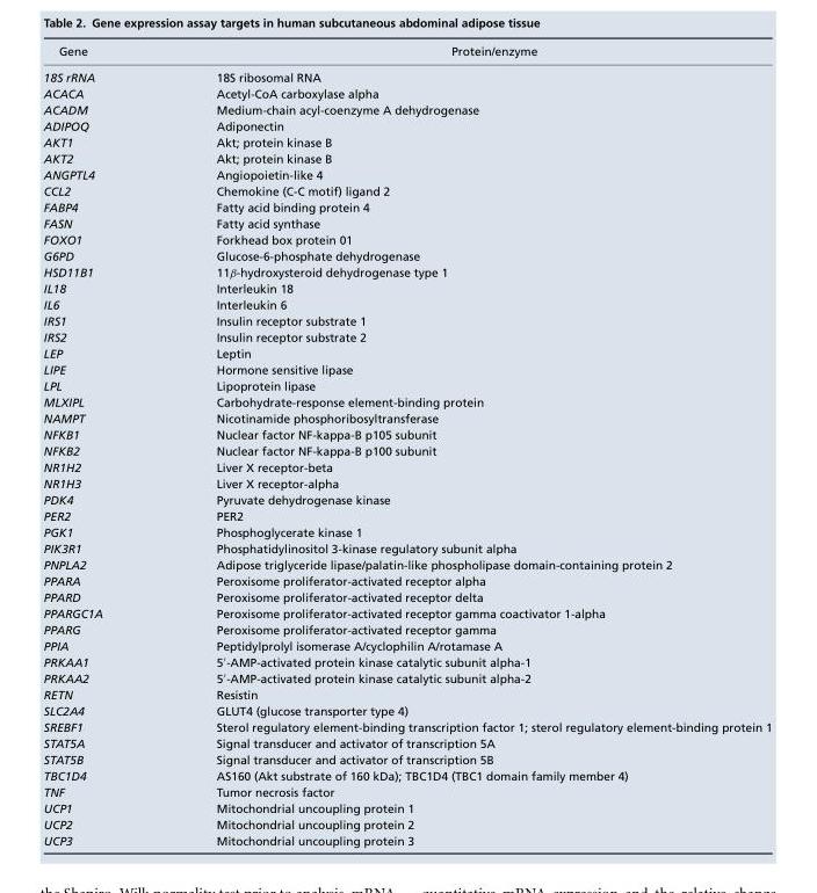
<table><thead><tr><td>Gene</td><td>Protein/enzyme</td></tr></thead><tbody><tr><td>18S rRNA</td><td>18S ribosomal RNA</td></tr><tr><td>ACACA</td><td>Acetyl-CoA carboxylase alpha</td></tr><tr><td>ACADM</td><td>Medium-chain acyl-coenzyme A dehydrogenase</td></tr><tr><td>ADIPOQ</td><td>Adiponectin</td></tr><tr><td>AKT1</td><td>Akt; protein kinase B</td></tr><tr><td>AKT2</td><td>Akt; protein kinase B</td></tr><tr><td>ANGPTL4</td><td>Angiopoietin-like 4</td></tr><tr><td>CCL2</td><td>Chemokine (C-C motif) ligand 2</td></tr><tr><td>FABP4</td><td>Fatty acid binding protein 4</td></tr><tr><td>FASN</td><td>Fatty acid synthase</td></tr><tr><td>FOXO1</td><td>Forkhead box protein 01</td></tr><tr><td>G6PD</td><td>Glucose-6-phosphate dehydrogenase</td></tr><tr><td>HSD11B1</td><td>11β-hydroxysteroid dehydrogenase type 1</td></tr><tr><td>IL18</td><td>Interleukin 18</td></tr><tr><td>IL6</td><td>Interleukin 6</td></tr><tr><td>IRS1</td><td>Insulin receptor substrate 1</td></tr><tr><td>IRS2</td><td>Insulin receptor substrate 2</td></tr><tr><td>LEP</td><td>Leptin</td></tr><tr><td>LIPE</td><td>Hormone sensitive lipase</td></tr><tr><td>LPL</td><td>Lipoprotein lipase</td></tr><tr><td>MLXIPL</td><td>Carbohydrate-response element-binding protein</td></tr><tr><td>NAMPT</td><td>Nicotinamide phosphoribosyltransferase</td></tr><tr><td>NFKB1</td><td>Nuclear factor NF-kappa-B p105 subunit</td></tr><tr><td>NFKB2</td><td>Nuclear factor NF-kappa-B p100 subunit</td></tr><tr><td>NR1H2</td><td>Liver X receptor-beta</td></tr><tr><td>NR1H3</td><td>Liver X receptor-alpha</td></tr><tr><td>PDK4</td><td>Pyruvate dehydrogenase kinase</td></tr><tr><td>PER2</td><td>PER2</td></tr><tr><td>PGK1</td><td>Phosphoglycerate kinase 1</td></tr><tr><td>PIK3R1</td><td>Phosphatidylinositol 3-kinase regulatory subunit alpha</td></tr><tr><td>PNPLA2</td><td>Adipose triglyceride lipase/palatin-like phospholipase domain-containing protein 2</td></tr><tr><td>PPARA</td><td>Peroxisome proliferator-activated receptor alpha</td></tr><tr><td>PPARD</td><td>Peroxisome proliferator-activated receptor delta</td></tr><tr><td>PPARGC1A</td><td>Peroxisome proliferator-activated receptor gamma coactivator 1-alpha</td></tr><tr><td>PPARG</td><td>Peroxisome proliferator-activated receptor gamma</td></tr><tr><td>PPIA</td><td>Peptidylprolyl isomerase A/cyclophilin A/rotamase A</td></tr><tr><td>PRKAA1</td><td>5′-AMP-activated protein kinase catalytic subunit alpha-1</td></tr><tr><td>PRKAA2</td><td>5′-AMP-activated protein kinase catalytic subunit alpha-2</td></tr><tr><td>RETN</td><td>Resistin</td></tr><tr><td>SLC2A4</td><td>GLUT4 (glucose transporter type 4)</td></tr><tr><td>SREBF1</td><td>Sterol regulatory element-binding transcription factor 1; sterol regulatory element-binding protein 1</td></tr><tr><td>STAT5A</td><td>Signal transducer and activator of transcription 5A</td></tr><tr><td>STAT5B</td><td>Signal transducer and activator of transcription 5B</td></tr><tr><td>TBC1D4</td><td>AS160 (Akt substrate of 160 kDa); TBC1D4 (TBC1 domain family member 4)</td></tr><tr><td>TNF</td><td>Tumor necrosis factor</td></tr><tr><td>UCP1</td><td>Mitochondrial uncoupling protein 1</td></tr><tr><td>UCP2</td><td>Mitochondrial uncoupling protein 2</td></tr><tr><td>UCP3</td><td>Mitochondrial uncoupling protein 3</td></tr></tbody></table>